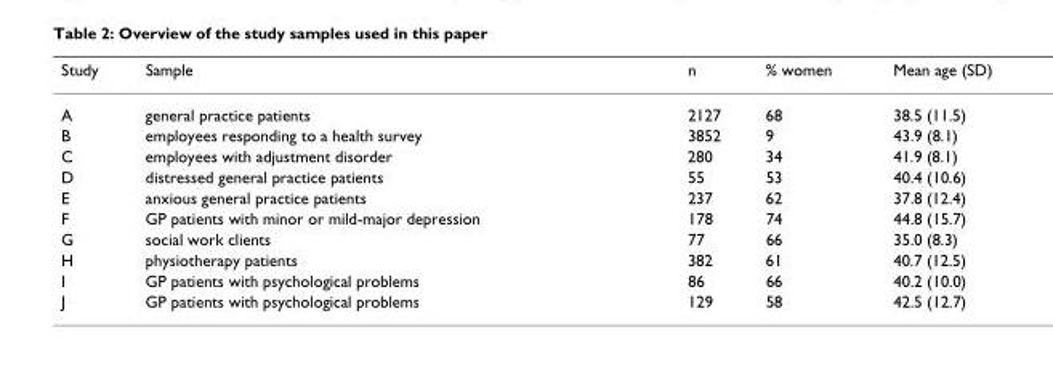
<table><thead><tr><td>Study</td><td>Sample</td><td>n</td><td>% women</td><td>Mean age (SD)</td></tr></thead><tbody><tr><td>A</td><td>general practice patients</td><td>2127</td><td>68</td><td>38.5 (11.5)</td></tr><tr><td>B</td><td>employees responding to a health survey</td><td>3852</td><td>9</td><td>43.9 (8.1)</td></tr><tr><td>C</td><td>employees with adjustment disorder</td><td>280</td><td>34</td><td>41.9 (8.1)</td></tr><tr><td>D</td><td>distressed general practice patients</td><td>55</td><td>53</td><td>40.4 (10.6)</td></tr><tr><td>E</td><td>anxious general practice patients</td><td>237</td><td>62</td><td>37.8 (12.4)</td></tr><tr><td>F</td><td>GP patients with minor or mild-major depression</td><td>178</td><td>74</td><td>44.8 (15.7)</td></tr><tr><td>G</td><td>social work clients</td><td>77</td><td>66</td><td>35.0 (8.3)</td></tr><tr><td>H</td><td>physiotherapy patients</td><td>382</td><td>61</td><td>40.7 (12.5)</td></tr><tr><td>I</td><td>GP patients with psychological problems</td><td>86</td><td>66</td><td>40.2 (10.0)</td></tr><tr><td>J</td><td>GP patients with psychological problems</td><td>129</td><td>58</td><td>42.5 (12.7)</td></tr></tbody></table>